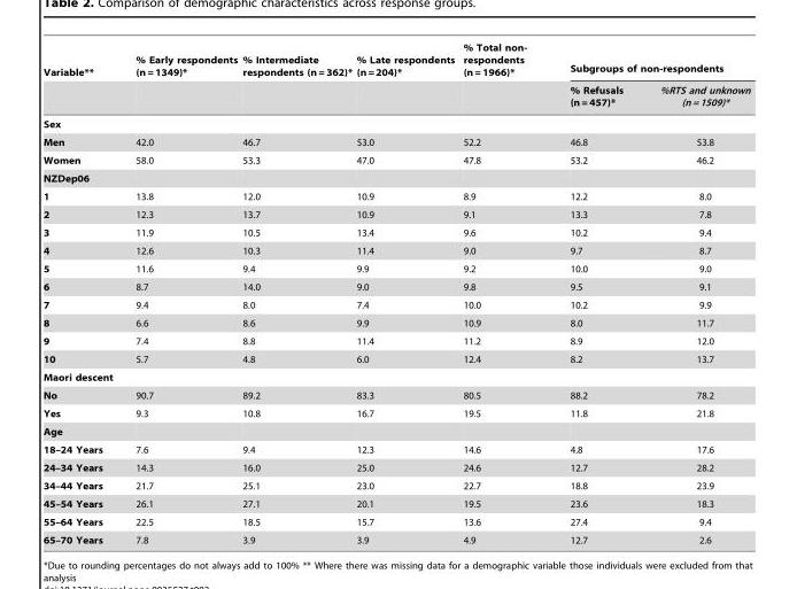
<table><thead><tr><td rowspan="2">Variable**</td><td rowspan="2">% Early respondents (n = 1349)*</td><td rowspan="2">% Intermediate respondents (n = 362)*</td><td rowspan="2">% Late respondents (n = 204)*</td><td rowspan="2">% Total non- respondents (n = 1966)*</td><td colspan="2">Subgroups of non-respondents</td></tr><tr><td>% Refusals (n = 457)*</td><td>%RTS and unknown (n = 1509)*</td></tr></thead><tbody><tr><td colspan="7">Sex</td></tr><tr><td>Men</td><td>42.0</td><td>46.7</td><td>53.0</td><td>52.2</td><td>46.8</td><td>53.8</td></tr><tr><td>Women</td><td>58.0</td><td>53.3</td><td>47.0</td><td>47.8</td><td>53.2</td><td>46.2</td></tr><tr><td colspan="7">NZDep06</td></tr><tr><td>1</td><td>13.8</td><td>12.0</td><td>10.9</td><td>8.9</td><td>12.2</td><td>8.0</td></tr><tr><td>2</td><td>12.3</td><td>13.7</td><td>10.9</td><td>9.1</td><td>13.3</td><td>7.8</td></tr><tr><td>3</td><td>11.9</td><td>10.5</td><td>13.4</td><td>9.6</td><td>10.2</td><td>9.4</td></tr><tr><td>4</td><td>12.6</td><td>10.3</td><td>11.4</td><td>9.0</td><td>9.7</td><td>8.7</td></tr><tr><td>5</td><td>11.6</td><td>9.4</td><td>9.9</td><td>9.2</td><td>10.0</td><td>9.0</td></tr><tr><td>6</td><td>8.7</td><td>14.0</td><td>9.0</td><td>9.8</td><td>9.5</td><td>9.1</td></tr><tr><td>7</td><td>9.4</td><td>8.0</td><td>7.4</td><td>10.0</td><td>10.2</td><td>9.9</td></tr><tr><td>8</td><td>6.6</td><td>8.6</td><td>9.9</td><td>10.9</td><td>8.0</td><td>11.7</td></tr><tr><td>9</td><td>7.4</td><td>8.8</td><td>11.4</td><td>11.2</td><td>8.9</td><td>12.0</td></tr><tr><td>10</td><td>5.7</td><td>4.8</td><td>6.0</td><td>12.4</td><td>8.2</td><td>13.7</td></tr><tr><td colspan="7">Maori descent</td></tr><tr><td>No</td><td>90.7</td><td>89.2</td><td>83.3</td><td>80.5</td><td>88.2</td><td>78.2</td></tr><tr><td>Yes</td><td>9.3</td><td>10.8</td><td>16.7</td><td>19.5</td><td>11.8</td><td>21.8</td></tr><tr><td colspan="7">Age</td></tr><tr><td>18–24 Years</td><td>7.6</td><td>9.4</td><td>12.3</td><td>14.6</td><td>4.8</td><td>17.6</td></tr><tr><td>24–34 Years</td><td>14.3</td><td>16.0</td><td>25.0</td><td>24.6</td><td>12.7</td><td>28.2</td></tr><tr><td>34–44 Years</td><td>21.7</td><td>25.1</td><td>23.0</td><td>22.7</td><td>18.8</td><td>23.9</td></tr><tr><td>45–54 Years</td><td>26.1</td><td>27.1</td><td>20.1</td><td>19.5</td><td>23.6</td><td>18.3</td></tr><tr><td>55–64 Years</td><td>22.5</td><td>18.5</td><td>15.7</td><td>13.6</td><td>27.4</td><td>9.4</td></tr><tr><td>65–70 Years</td><td>7.8</td><td>3.9</td><td>3.9</td><td>4.9</td><td>12.7</td><td>2.6</td></tr></tbody></table>